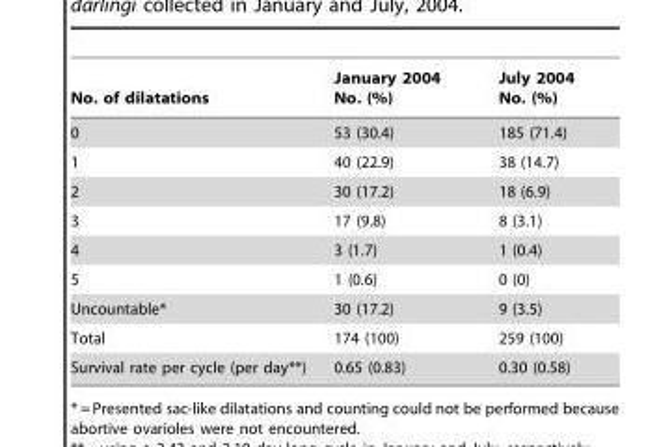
<table><thead><tr><td>No. of dilatations</td><td>January 2004 No. (%)</td><td>July 2004 No. (%)</td></tr></thead><tbody><tr><td>0</td><td>53 (30.4)</td><td>185 (71.4)</td></tr><tr><td>1</td><td>40 (22.9)</td><td>38 (14.7)</td></tr><tr><td>2</td><td>30 (17.2)</td><td>18 (6.9)</td></tr><tr><td>3</td><td>17 (9.8)</td><td>8 (3.1)</td></tr><tr><td>4</td><td>3 (1.7)</td><td>1 (0.4)</td></tr><tr><td>5</td><td>1 (0.6)</td><td>0 (0)</td></tr><tr><td>Uncountable*</td><td>30 (17.2)</td><td>9 (3.5)</td></tr><tr><td>Total</td><td>174 (100)</td><td>259 (100)</td></tr><tr><td>Survival rate per cycle (per day**)</td><td>0.65 (0.83)</td><td>0.30 (0.58)</td></tr></tbody></table>